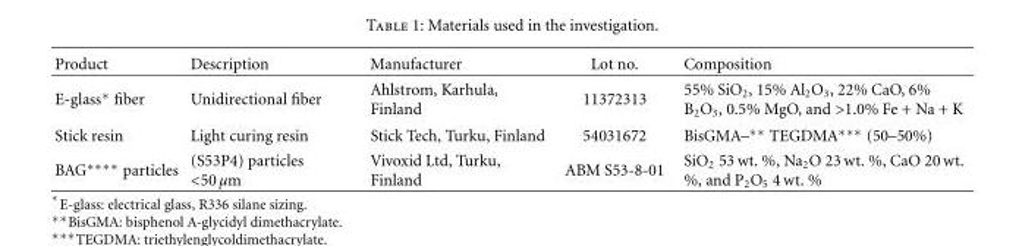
<table><thead><tr><td>Product</td><td>Description</td><td>Manufacturer</td><td>Lot no.</td><td>Composition</td></tr></thead><tbody><tr><td>E-glass∗ fiber</td><td>Unidirectional fiber</td><td>Ahlstrom, Karhula, Finland</td><td>11372313</td><td>55% SiO<sub>2</sub>, 15% Al<sub>2</sub>O<sub>3</sub>, 22% CaO, 6% B<sub>2</sub>O<sub>3</sub>, 0.5% MgO, and &gt;1.0% Fe + Na + K</td></tr><tr><td>Stick resin</td><td>Light curing resin</td><td>Stick Tech, Turku, Finland</td><td>54031672</td><td>BisGMA–∗∗ TEGDMA∗∗∗ (50–50%)</td></tr><tr><td>BAG∗∗∗∗ particles</td><td>(S53P4) particles &lt;50 μm</td><td>Vivoxid Ltd, Turku, Finland</td><td>ABM S53-8-01</td><td>SiO<sub>2</sub> 53 wt. %, Na<sub>2</sub>O 23 wt. %, CaO 20 wt. %, and P<sub>2</sub>O<sub>5</sub> 4 wt. %</td></tr></tbody></table>